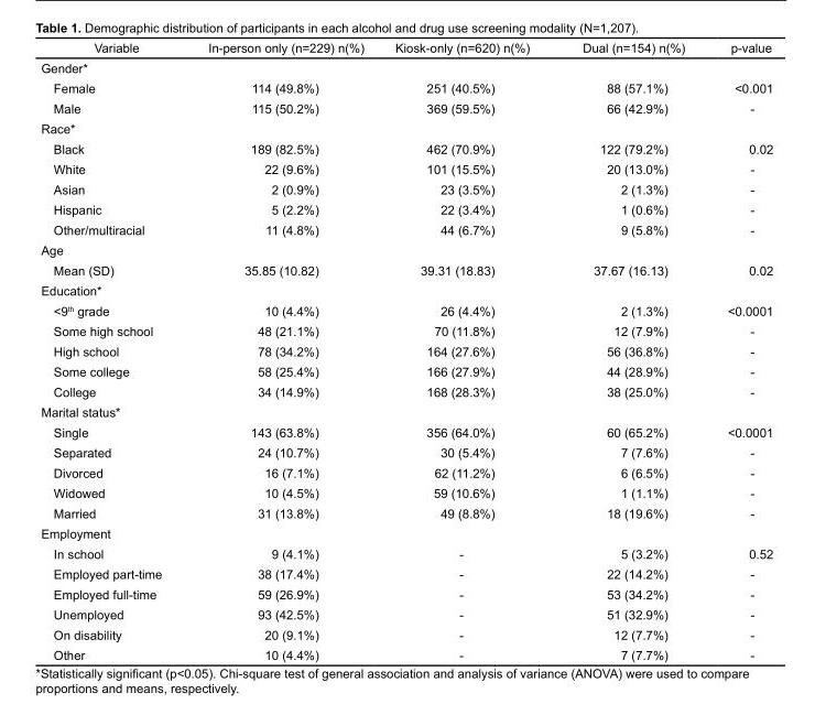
<table><thead><tr><td>Variable</td><td>In-person only (n=229) n(%)</td><td>Kiosk-only (n=620) n(%)</td><td>Dual (n=154) n(%)</td><td>p-value</td></tr></thead><tbody><tr><td colspan="5">Gender*</td></tr><tr><td>Female</td><td>114 (49.8%)</td><td>251 (40.5%)</td><td>88 (57.1%)</td><td>&lt;0.001</td></tr><tr><td>Male</td><td>115 (50.2%)</td><td>369 (59.5%)</td><td>66 (42.9%)</td><td>-</td></tr><tr><td colspan="5">Race*</td></tr><tr><td>Black</td><td>189 (82.5%)</td><td>462 (70.9%)</td><td>122 (79.2%)</td><td>0.02</td></tr><tr><td>White</td><td>22 (9.6%)</td><td>101 (15.5%)</td><td>20 (13.0%)</td><td>-</td></tr><tr><td>Asian</td><td>2 (0.9%)</td><td>23 (3.5%)</td><td>2 (1.3%)</td><td>-</td></tr><tr><td>Hispanic</td><td>5 (2.2%)</td><td>22 (3.4%)</td><td>1 (0.6%)</td><td>-</td></tr><tr><td>Other/multiracial</td><td>11 (4.8%)</td><td>44 (6.7%)</td><td>9 (5.8%)</td><td>-</td></tr><tr><td colspan="5">Age</td></tr><tr><td>Mean (SD)</td><td>35.85 (10.82)</td><td>39.31 (18.83)</td><td>37.67 (16.13)</td><td>0.02</td></tr><tr><td colspan="5">Education*</td></tr><tr><td>&lt;9<sup>th</sup> grade</td><td>10 (4.4%)</td><td>26 (4.4%)</td><td>2 (1.3%)</td><td>&lt;0.0001</td></tr><tr><td>Some high school</td><td>48 (21.1%)</td><td>70 (11.8%)</td><td>12 (7.9%)</td><td>-</td></tr><tr><td>High school</td><td>78 (34.2%)</td><td>164 (27.6%)</td><td>56 (36.8%)</td><td>-</td></tr><tr><td>Some college</td><td>58 (25.4%)</td><td>166 (27.9%)</td><td>44 (28.9%)</td><td>-</td></tr><tr><td>College</td><td>34 (14.9%)</td><td>168 (28.3%)</td><td>38 (25.0%)</td><td>-</td></tr><tr><td colspan="5">Marital status*</td></tr><tr><td>Single</td><td>143 (63.8%)</td><td>356 (64.0%)</td><td>60 (65.2%)</td><td>&lt;0.0001</td></tr><tr><td>Separated</td><td>24 (10.7%)</td><td>30 (5.4%)</td><td>7 (7.6%)</td><td>-</td></tr><tr><td>Divorced</td><td>16 (7.1%)</td><td>62 (11.2%)</td><td>6 (6.5%)</td><td>-</td></tr><tr><td>Widowed</td><td>10 (4.5%)</td><td>59 (10.6%)</td><td>1 (1.1%)</td><td>-</td></tr><tr><td>Married</td><td>31 (13.8%)</td><td>49 (8.8%)</td><td>18 (19.6%)</td><td>-</td></tr><tr><td colspan="5">Employment</td></tr><tr><td>In school</td><td>9 (4.1%)</td><td>-</td><td>5 (3.2%)</td><td>0.52</td></tr><tr><td>Employed part-time</td><td>38 (17.4%)</td><td>-</td><td>22 (14.2%)</td><td>-</td></tr><tr><td>Employed full-time</td><td>59 (26.9%)</td><td>-</td><td>53 (34.2%)</td><td>-</td></tr><tr><td>Unemployed</td><td>93 (42.5%)</td><td>-</td><td>51 (32.9%)</td><td>-</td></tr><tr><td>On disability</td><td>20 (9.1%)</td><td>-</td><td>12 (7.7%)</td><td>-</td></tr><tr><td>Other</td><td>10 (4.4%)</td><td>-</td><td>7 (7.7%)</td><td>-</td></tr></tbody></table>